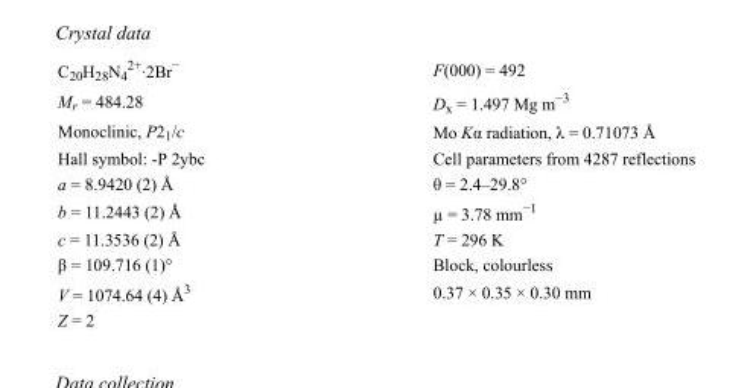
<table><tbody><tr><td>C<sub>20</sub>H<sub>28</sub>N<sub>4</sub> <sup>2+</sup>·2Br<sup>−</sup></td><td>F(000) = 492</td></tr><tr><td>M<sub>r</sub> = 484.28</td><td>D<sub>x</sub> = 1.497 Mg m<sup>−3</sup></td></tr><tr><td>Monoclinic, P2<sub>1</sub>/c</td><td>Mo Kα radiation, λ = 0.71073 Å</td></tr><tr><td>Hall symbol: -P 2ybc</td><td>Cell parameters from 4287 reflections</td></tr><tr><td>a = 8.9420 (2) Å</td><td>θ = 2.4–29.8°</td></tr><tr><td>b = 11.2443 (2) Å</td><td>µ = 3.78 mm<sup>−1</sup></td></tr><tr><td>c = 11.3536 (2) Å</td><td>T = 296 K</td></tr><tr><td>β = 109.716 (1)°</td><td>Block, colourless</td></tr><tr><td>V = 1074.64 (4) Å<sup>3</sup></td><td>0.37 × 0.35 × 0.30 mm</td></tr><tr><td>Z = 2</td><td></td></tr></tbody></table>